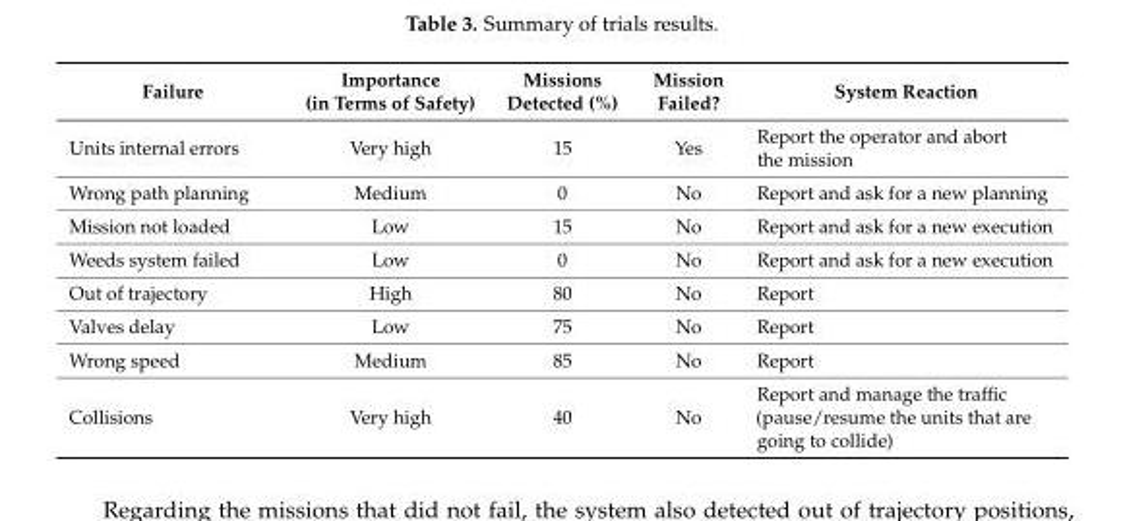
<table><thead><tr><td>Failure</td><td>Importance (in Terms of Safety)</td><td>Missions Detected (%)</td><td>Mission Failed?</td><td>System Reaction</td></tr></thead><tbody><tr><td>Units internal errors</td><td>Very high</td><td>15</td><td>Yes</td><td>Report the operator and abort the mission</td></tr><tr><td>Wrong path planning</td><td>Medium</td><td>0</td><td>No</td><td>Report and ask for a new planning</td></tr><tr><td>Mission not loaded</td><td>Low</td><td>15</td><td>No</td><td>Report and ask for a new execution</td></tr><tr><td>Weeds system failed</td><td>Low</td><td>0</td><td>No</td><td>Report and ask for a new execution</td></tr><tr><td>Out of trajectory</td><td>High</td><td>80</td><td>No</td><td>Report</td></tr><tr><td>Valves delay</td><td>Low</td><td>75</td><td>No</td><td>Report</td></tr><tr><td>Wrong speed</td><td>Medium</td><td>85</td><td>No</td><td>Report</td></tr><tr><td>Collisions</td><td>Very high</td><td>40</td><td>No</td><td>Report and manage the traffic (pause/resume the units that are going to collide)</td></tr></tbody></table>